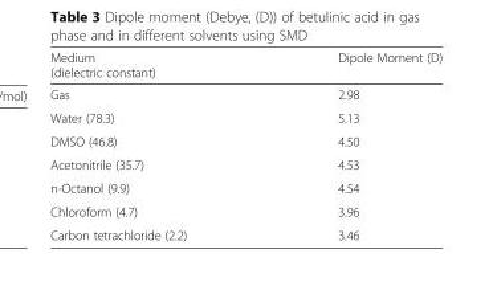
<table><thead><tr><td>Medium (dielectric constant)</td><td>Dipole Moment (D)</td></tr></thead><tbody><tr><td>Gas</td><td>2.98</td></tr><tr><td>Water (78.3)</td><td>5.13</td></tr><tr><td>DMSO (46.8)</td><td>4.50</td></tr><tr><td>Acetonitrile (35.7)</td><td>4.53</td></tr><tr><td>n-Octanol (9.9)</td><td>4.54</td></tr><tr><td>Chloroform (4.7)</td><td>3.96</td></tr><tr><td>Carbon tetrachloride (2.2)</td><td>3.46</td></tr></tbody></table>